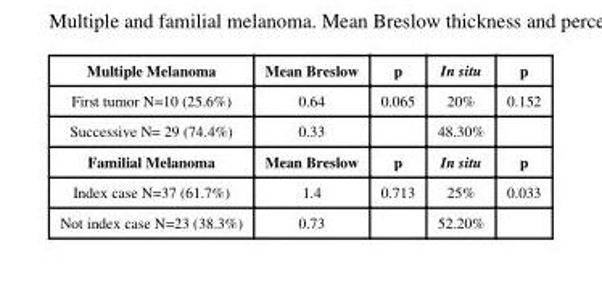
<table><tbody><tr><td>Multiple Melanoma</td><td>Mean Breslow</td><td>p</td><td>In situ</td><td>p</td></tr><tr><td>First tumor N=10 (25.6%)</td><td>0.64</td><td>0.065</td><td>20%</td><td>0.152</td></tr><tr><td>Successive N= 29 (74.4%)</td><td>0.33</td><td></td><td>48.30%</td><td></td></tr><tr><td>Familial Melanoma</td><td>Mean Breslow</td><td>p</td><td>In situ</td><td>p</td></tr><tr><td>Index case N=37 (61.7%)</td><td>1.4</td><td>0.713</td><td>25%</td><td>0.033</td></tr><tr><td>Not index case N=23 (38.3%)</td><td>0.73</td><td></td><td>52.20%</td><td></td></tr></tbody></table>